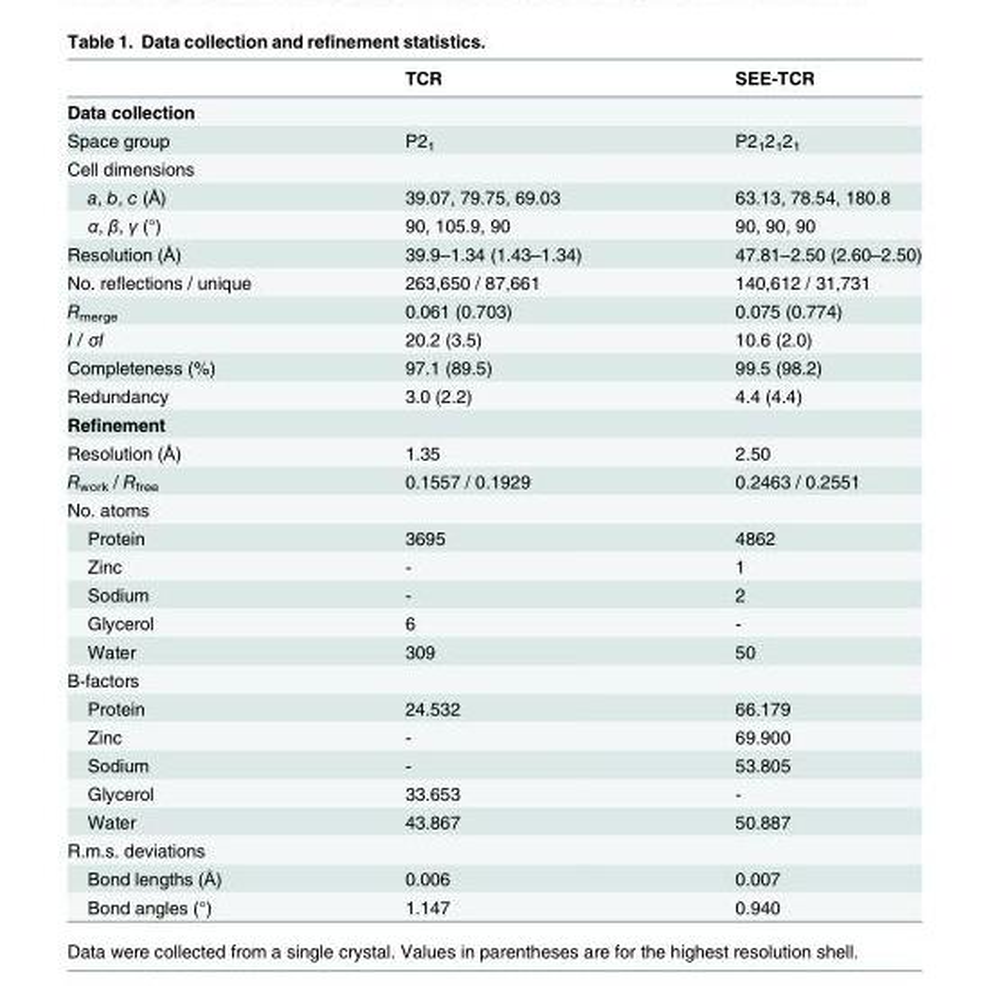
<table><thead><tr><td></td><td>TCR</td><td>SEE-TCR</td></tr></thead><tbody><tr><td colspan="3">Data collection</td></tr><tr><td>Space group</td><td>P2<sub>1</sub></td><td>P2<sub>1</sub>2<sub>1</sub>2<sub>1</sub></td></tr><tr><td colspan="3">Cell dimensions</td></tr><tr><td>a, b, c (Å)</td><td>39.07, 79.75, 69.03</td><td>63.13, 78.54, 180.8</td></tr><tr><td>α, β, γ (°)</td><td>90, 105.9, 90</td><td>90, 90, 90</td></tr><tr><td>Resolution (Å)</td><td>39.9–1.34 (1.43–1.34)</td><td>47.81–2.50 (2.60–2.50)</td></tr><tr><td>No. reflections / unique</td><td>263,650 / 87,661</td><td>140,612 / 31,731</td></tr><tr><td>R<sub>merge</sub></td><td>0.061 (0.703)</td><td>0.075 (0.774)</td></tr><tr><td>I / σI</td><td>20.2 (3.5)</td><td>10.6 (2.0)</td></tr><tr><td>Completeness (%)</td><td>97.1 (89.5)</td><td>99.5 (98.2)</td></tr><tr><td>Redundancy</td><td>3.0 (2.2)</td><td>4.4 (4.4)</td></tr><tr><td colspan="3">Refinement</td></tr><tr><td>Resolution (Å)</td><td>1.35</td><td>2.50</td></tr><tr><td>R<sub>work</sub> / R<sub>free</sub></td><td>0.1557 / 0.1929</td><td>0.2463 / 0.2551</td></tr><tr><td colspan="3">No. atoms</td></tr><tr><td>Protein</td><td>3695</td><td>4862</td></tr><tr><td>Zinc</td><td>-</td><td>1</td></tr><tr><td>Sodium</td><td>-</td><td>2</td></tr><tr><td>Glycerol</td><td>6</td><td>-</td></tr><tr><td>Water</td><td>309</td><td>50</td></tr><tr><td colspan="3">B-factors</td></tr><tr><td>Protein</td><td>24.532</td><td>66.179</td></tr><tr><td>Zinc</td><td>-</td><td>69.900</td></tr><tr><td>Sodium</td><td>-</td><td>53.805</td></tr><tr><td>Glycerol</td><td>33.653</td><td>-</td></tr><tr><td>Water</td><td>43.867</td><td>50.887</td></tr><tr><td colspan="3">R.m.s. deviations</td></tr><tr><td>Bond lengths (Å)</td><td>0.006</td><td>0.007</td></tr><tr><td>Bond angles (°)</td><td>1.147</td><td>0.940</td></tr></tbody></table>